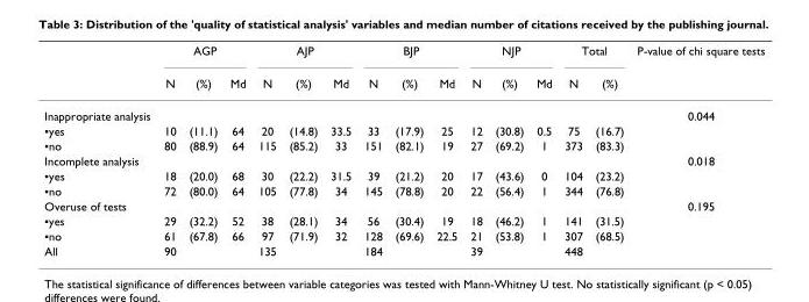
<table><thead><tr><td rowspan="2"></td><td colspan="3">AGP</td><td colspan="3">AJP</td><td colspan="3">BJP</td><td colspan="3">NJP</td><td colspan="2">Total</td><td rowspan="2">P-value of chi square tests</td></tr><tr><td>N</td><td>(%)</td><td>Md</td><td>N</td><td>(%)</td><td>Md</td><td>N</td><td>(%)</td><td>Md</td><td>N</td><td>(%)</td><td>Md</td><td>N</td><td>(%)</td></tr></thead><tbody><tr><td>Inappropriate analysis</td><td></td><td></td><td></td><td></td><td></td><td></td><td></td><td></td><td></td><td></td><td></td><td></td><td></td><td></td><td>0.044</td></tr><tr><td>▪yes</td><td>10</td><td>(11.1)</td><td>64</td><td>20</td><td>(14.8)</td><td>33.5</td><td>33</td><td>(17.9)</td><td>25</td><td>12</td><td>(30.8)</td><td>0.5</td><td>75</td><td>(16.7)</td><td></td></tr><tr><td>▪no</td><td>80</td><td>(88.9)</td><td>64</td><td>115</td><td>(85.2)</td><td>33</td><td>151</td><td>(82.1)</td><td>19</td><td>27</td><td>(69.2)</td><td>1</td><td>373</td><td>(83.3)</td><td></td></tr><tr><td>Incomplete analysis</td><td></td><td></td><td></td><td></td><td></td><td></td><td></td><td></td><td></td><td></td><td></td><td></td><td></td><td></td><td>0.018</td></tr><tr><td>▪yes</td><td>18</td><td>(20.0)</td><td>68</td><td>30</td><td>(22.2)</td><td>31.5</td><td>39</td><td>(21.2)</td><td>20</td><td>17</td><td>(43.6)</td><td>0</td><td>104</td><td>(23.2)</td><td></td></tr><tr><td>▪no</td><td>72</td><td>(80.0)</td><td>64</td><td>105</td><td>(77.8)</td><td>34</td><td>145</td><td>(78.8)</td><td>20</td><td>22</td><td>(56.4)</td><td>1</td><td>344</td><td>(76.8)</td><td></td></tr><tr><td>Overuse of tests</td><td></td><td></td><td></td><td></td><td></td><td></td><td></td><td></td><td></td><td></td><td></td><td></td><td></td><td></td><td>0.195</td></tr><tr><td>▪yes</td><td>29</td><td>(32.2)</td><td>52</td><td>38</td><td>(28.1)</td><td>34</td><td>56</td><td>(30.4)</td><td>19</td><td>18</td><td>(46.2)</td><td>1</td><td>141</td><td>(31.5)</td><td></td></tr><tr><td>▪no</td><td>61</td><td>(67.8)</td><td>66</td><td>97</td><td>(71.9)</td><td>32</td><td>128</td><td>(69.6)</td><td>22.5</td><td>21</td><td>(53.8)</td><td>1</td><td>307</td><td>(68.5)</td><td></td></tr><tr><td>All</td><td>90</td><td></td><td></td><td>135</td><td></td><td></td><td>184</td><td></td><td></td><td>39</td><td></td><td></td><td>448</td><td></td><td></td></tr></tbody></table>